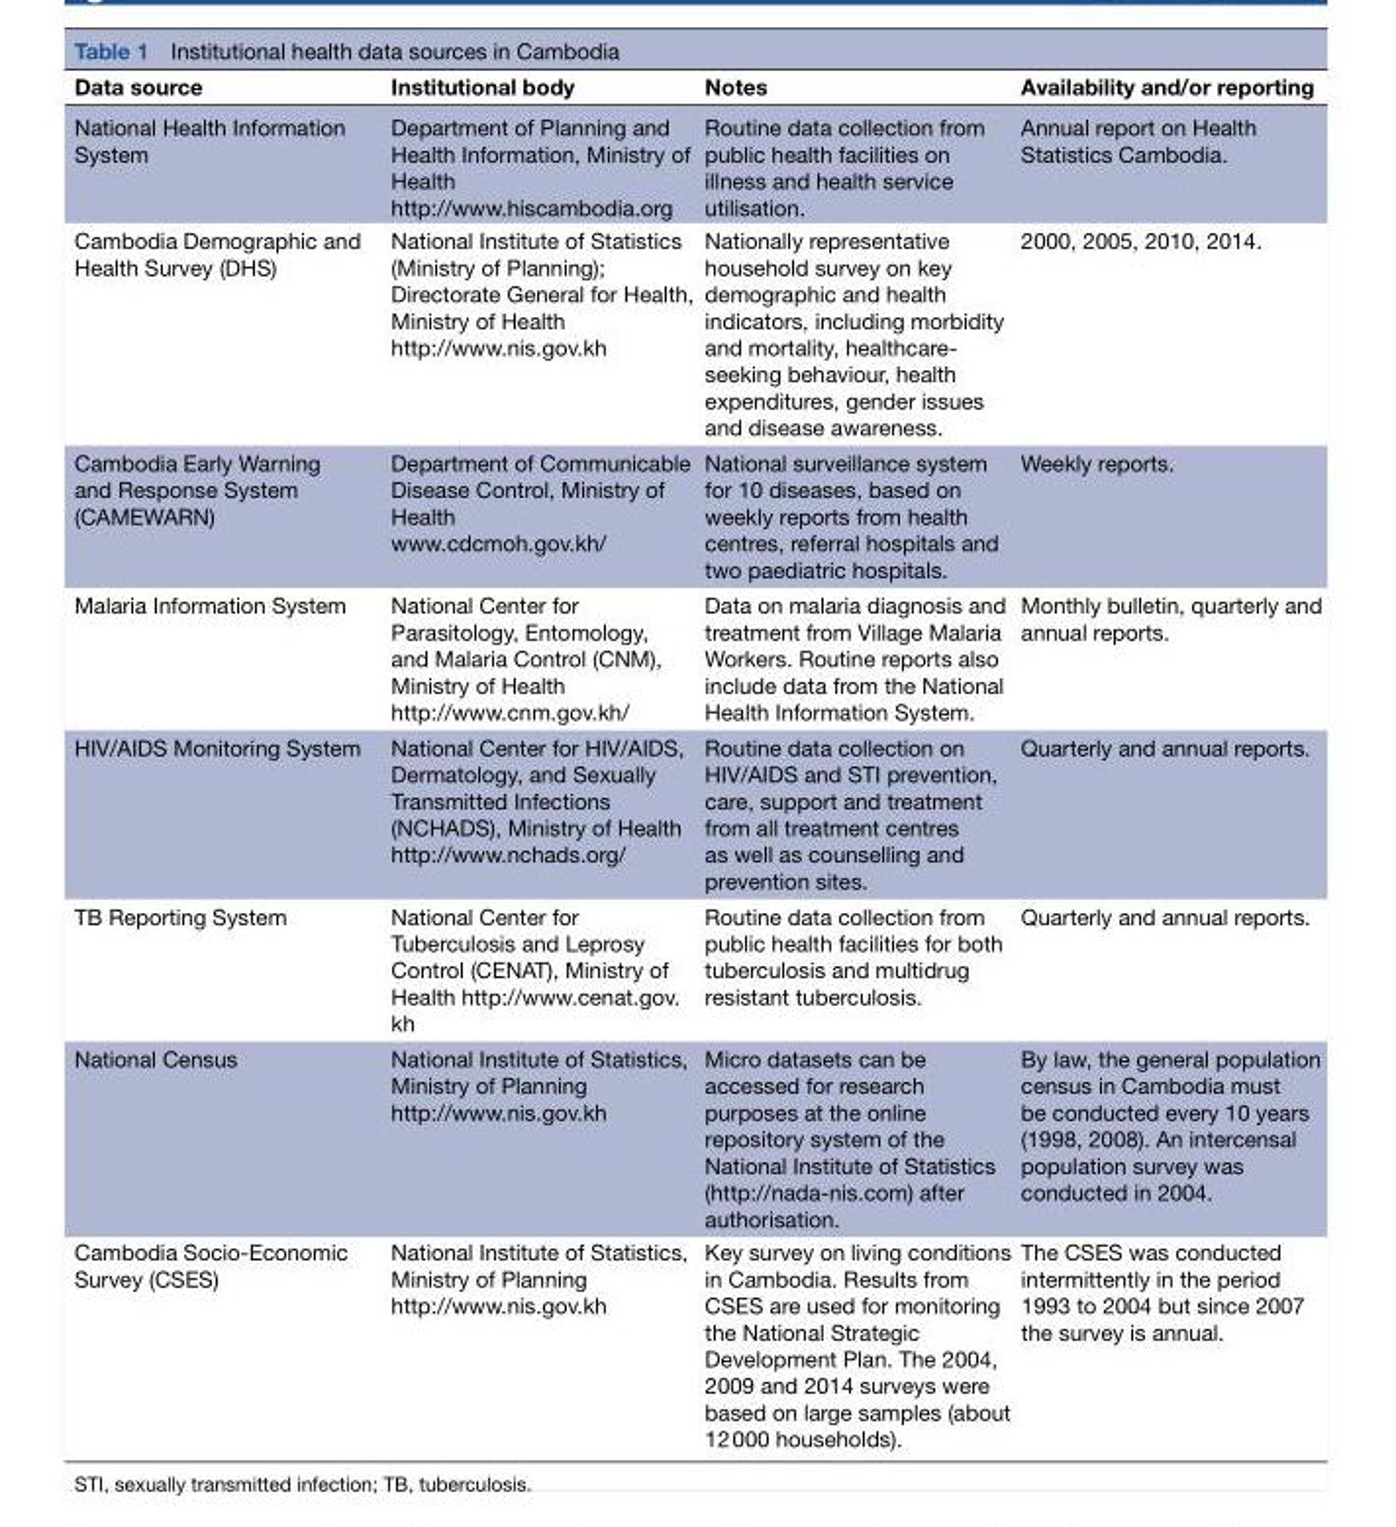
<table><thead><tr><td>Data source</td><td>Institutional body</td><td>Notes</td><td>Availability and/or reporting</td></tr></thead><tbody><tr><td>National Health Information System</td><td>Department of Planning and Health Information, Ministry of Health http://www.hiscambodia.org</td><td>Routine data collection from public health facilities on illness and health service utilisation.</td><td>Annual report on Health Statistics Cambodia.</td></tr><tr><td>Cambodia Demographic and Health Survey (DHS)</td><td>National Institute of Statistics (Ministry of Planning); Directorate General for Health, Ministry of Health http://www.nis.gov.kh</td><td>Nationally representative household survey on key demographic and health indicators, including morbidity and mortality, healthcare- seeking behaviour, health expenditures, gender issues and disease awareness.</td><td>2000, 2005, 2010, 2014.</td></tr><tr><td>Cambodia Early Warning and Response System (CAMEWARN)</td><td>Department of Communicable Disease Control, Ministry of Health www.cdcmoh.gov.kh/</td><td>National surveillance system for 10 diseases, based on weekly reports from health centres, referral hospitals and two paediatric hospitals.</td><td>Weekly reports.</td></tr><tr><td>Malaria Information System</td><td>National Center for Parasitology, Entomology, and Malaria Control (CNM), Ministry of Health http://www.cnm.gov.kh/</td><td>Data on malaria diagnosis and treatment from Village Malaria Workers. Routine reports also include data from the National Health Information System.</td><td>Monthly bulletin, quarterly and annual reports.</td></tr><tr><td>HIV/AIDS Monitoring System</td><td>National Center for HIV/AIDS, Dermatology, and Sexually Transmitted Infections (NCHADS), Ministry of Health http://www.nchads.org/</td><td>Routine data collection on HIV/AIDS and STI prevention, care, support and treatment from all treatment centres as well as counselling and prevention sites.</td><td>Quarterly and annual reports.</td></tr><tr><td>TB Reporting System</td><td>National Center for Tuberculosis and Leprosy Control (CENAT), Ministry of Health http://www.cenat.gov. kh</td><td>Routine data collection from public health facilities for both tuberculosis and multidrug resistant tuberculosis.</td><td>Quarterly and annual reports.</td></tr><tr><td>National Census</td><td>National Institute of Statistics, Ministry of Planning http://www.nis.gov.kh</td><td>Micro datasets can be accessed for research purposes at the online repository system of the National Institute of Statistics (http://nada-nis.com) after authorisation.</td><td>By law, the general population census in Cambodia must be conducted every 10 years (1998, 2008). An intercensal population survey was conducted in 2004.</td></tr><tr><td>Cambodia Socio-Economic Survey (CSES)</td><td>National Institute of Statistics, Ministry of Planning http://www.nis.gov.kh</td><td>Key survey on living conditions in Cambodia. Results from CSES are used for monitoring the National Strategic Development Plan. The 2004, 2009 and 2014 surveys were based on large samples (about 12 000 households).</td><td>The CSES was conducted intermittently in the period 1993 to 2004 but since 2007 the survey is annual.</td></tr></tbody></table>